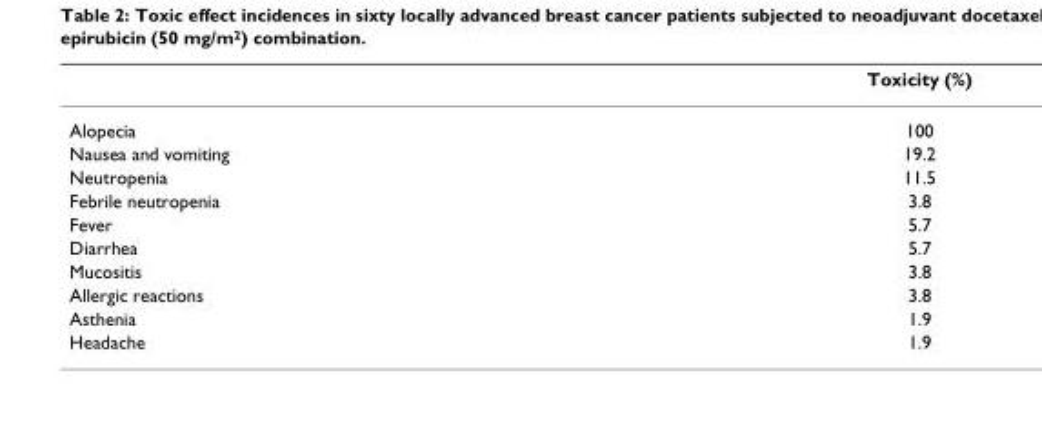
<table><thead><tr><td></td><td>Toxicity (%)</td></tr></thead><tbody><tr><td>Alopecia</td><td>100</td></tr><tr><td>Nausea and vomiting</td><td>19.2</td></tr><tr><td>Neutropenia</td><td>11.5</td></tr><tr><td>Febrile neutropenia</td><td>3.8</td></tr><tr><td>Fever</td><td>5.7</td></tr><tr><td>Diarrhea</td><td>5.7</td></tr><tr><td>Mucositis</td><td>3.8</td></tr><tr><td>Allergic reactions</td><td>3.8</td></tr><tr><td>Asthenia</td><td>1.9</td></tr><tr><td>Headache</td><td>1.9</td></tr></tbody></table>